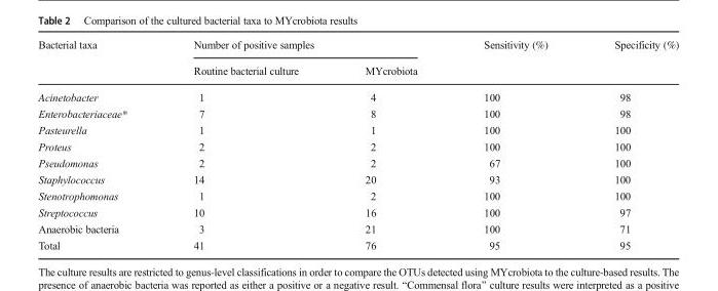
<table><thead><tr><td rowspan="2">Bacterial taxa</td><td colspan="2">Number of positive samples</td><td rowspan="2">Sensitivity (%)</td><td rowspan="2">Specificity (%)</td></tr><tr><td>Routine bacterial culture</td><td>MYcrobiota</td></tr></thead><tbody><tr><td>Acinetobacter</td><td>1</td><td>4</td><td>100</td><td>98</td></tr><tr><td>Enterobacteriaceae*</td><td>7</td><td>8</td><td>100</td><td>98</td></tr><tr><td>Pasteurella</td><td>1</td><td>1</td><td>100</td><td>100</td></tr><tr><td>Proteus</td><td>2</td><td>2</td><td>100</td><td>100</td></tr><tr><td>Pseudomonas</td><td>2</td><td>2</td><td>67</td><td>100</td></tr><tr><td>Staphylococcus</td><td>14</td><td>20</td><td>93</td><td>100</td></tr><tr><td>Stenotrophomonas</td><td>1</td><td>2</td><td>100</td><td>100</td></tr><tr><td>Streptococcus</td><td>10</td><td>16</td><td>100</td><td>97</td></tr><tr><td>Anaerobic bacteria</td><td>3</td><td>21</td><td>100</td><td>71</td></tr><tr><td>Total</td><td>41</td><td>76</td><td>95</td><td>95</td></tr></tbody></table>